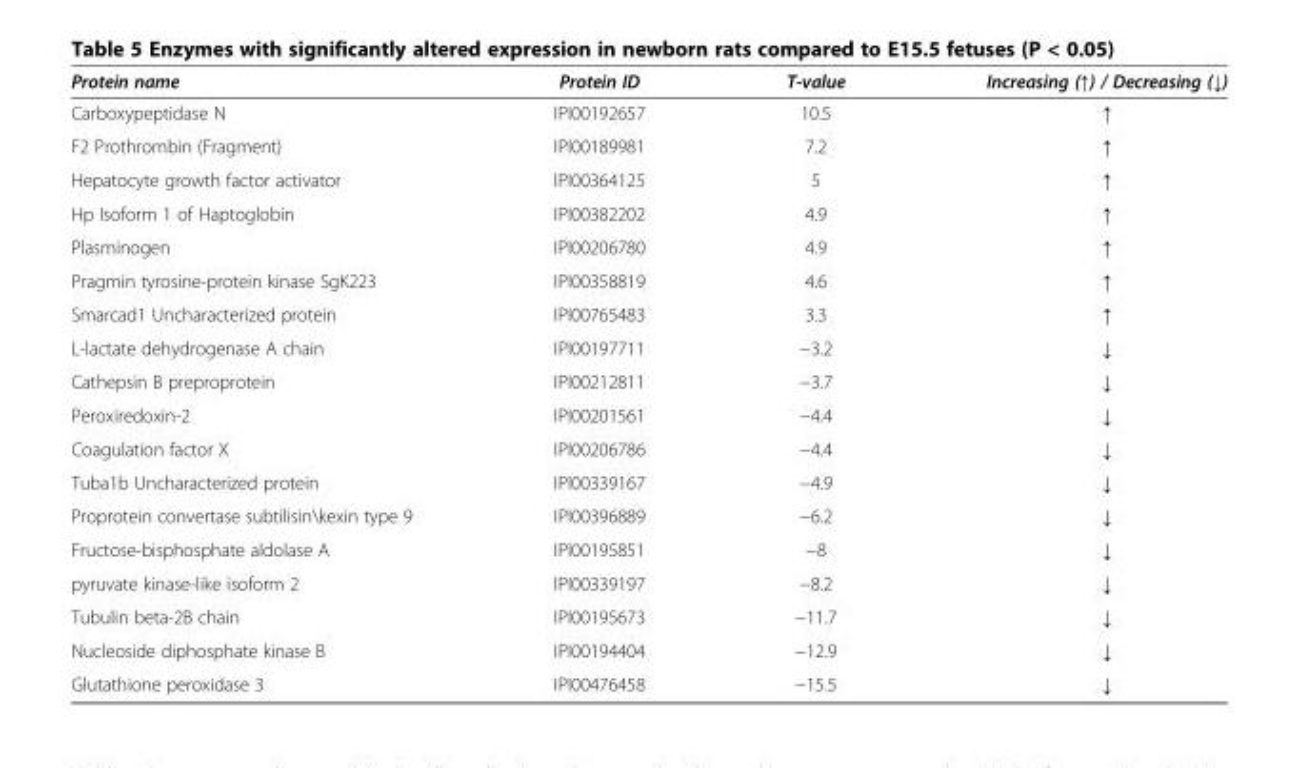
<table><thead><tr><td>Protein name</td><td>Protein ID</td><td>T-value</td><td>Increasing (↑) / Decreasing (↓)</td></tr></thead><tbody><tr><td>Carboxypeptidase N</td><td>IPI00192657</td><td>10.5</td><td>↑</td></tr><tr><td>F2 Prothrombin (Fragment)</td><td>IPI00189981</td><td>7.2</td><td>↑</td></tr><tr><td>Hepatocyte growth factor activator</td><td>IPI00364125</td><td>5</td><td>↑</td></tr><tr><td>Hp Isoform 1 of Haptoglobin</td><td>IPI00382202</td><td>4.9</td><td>↑</td></tr><tr><td>Plasminogen</td><td>IPI00206780</td><td>4.9</td><td>↑</td></tr><tr><td>Pragmin tyrosine-protein kinase SgK223</td><td>IPI00358819</td><td>4.6</td><td>↑</td></tr><tr><td>Smarcad1 Uncharacterized protein</td><td>IPI00765483</td><td>3.3</td><td>↑</td></tr><tr><td>L-lactate dehydrogenase A chain</td><td>IPI00197711</td><td>−3.2</td><td>↓</td></tr><tr><td>Cathepsin B preproprotein</td><td>IPI00212811</td><td>−3.7</td><td>↓</td></tr><tr><td>Peroxiredoxin-2</td><td>IPI00201561</td><td>−4.4</td><td>↓</td></tr><tr><td>Coagulation factor X</td><td>IPI00206786</td><td>−4.4</td><td>↓</td></tr><tr><td>Tuba1b Uncharacterized protein</td><td>IPI00339167</td><td>−4.9</td><td>↓</td></tr><tr><td>Proprotein convertase subtilisin\kexin type 9</td><td>IPI00396889</td><td>−6.2</td><td>↓</td></tr><tr><td>Fructose-bisphosphate aldolase A</td><td>IPI00195851</td><td>−8</td><td>↓</td></tr><tr><td>pyruvate kinase-like isoform 2</td><td>IPI00339197</td><td>−8.2</td><td>↓</td></tr><tr><td>Tubulin beta-2B chain</td><td>IPI00195673</td><td>−11.7</td><td>↓</td></tr><tr><td>Nucleoside diphosphate kinase B</td><td>IPI00194404</td><td>−12.9</td><td>↓</td></tr><tr><td>Glutathione peroxidase 3</td><td>IPI00476458</td><td>−15.5</td><td>↓</td></tr></tbody></table>